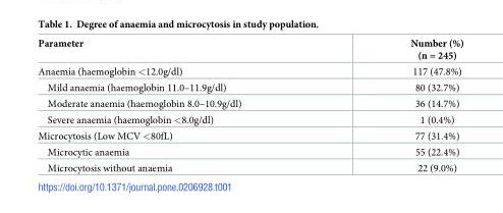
<table><thead><tr><td>Parameter</td><td>Number (%) (n = 245)</td></tr></thead><tbody><tr><td>Anaemia (haemoglobin &lt;12.0g/dl)</td><td>117 (47.8%)</td></tr><tr><td>Mild anaemia (haemoglobin 11.0–11.9g/dl)</td><td>80 (32.7%)</td></tr><tr><td>Moderate anaemia (haemoglobin 8.0–10.9g/dl)</td><td>36 (14.7%)</td></tr><tr><td>Severe anaemia (haemoglobin &lt;8.0g/dl)</td><td>1 (0.4%)</td></tr><tr><td>Microcytosis (Low MCV &lt;80fL)</td><td>77 (31.4%)</td></tr><tr><td>Microcytic anaemia</td><td>55 (22.4%)</td></tr><tr><td>Microcytosis without anaemia</td><td>22 (9.0%)</td></tr></tbody></table>